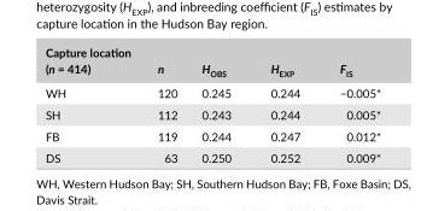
<table><thead><tr><td>Capture location (n = 414)</td><td>n</td><td>H<sub>OBS</sub></td><td>H<sub>EXP</sub></td><td>F<sub>IS</sub></td></tr></thead><tbody><tr><td>WH</td><td>120</td><td>0.245</td><td>0.244</td><td>−0.005*</td></tr><tr><td>SH</td><td>112</td><td>0.243</td><td>0.244</td><td>0.005*</td></tr><tr><td>FB</td><td>119</td><td>0.244</td><td>0.247</td><td>0.012*</td></tr><tr><td>DS</td><td>63</td><td>0.250</td><td>0.252</td><td>0.009*</td></tr></tbody></table>